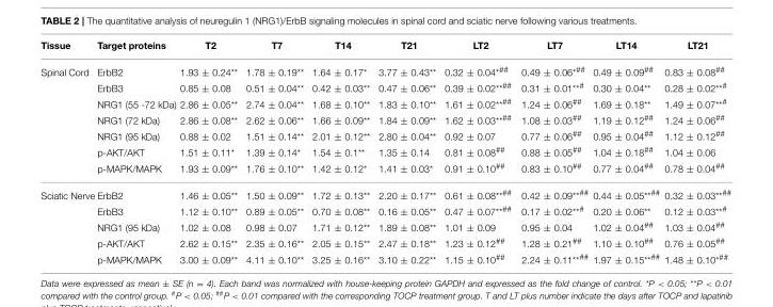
<table><thead><tr><td>Tissue</td><td>Target proteins</td><td>T2</td><td>T7</td><td>T14</td><td>T21</td><td>LT2</td><td>LT7</td><td>LT14</td><td>LT21</td></tr></thead><tbody><tr><td rowspan="7">Spinal Cord</td><td>ErbB2</td><td>1.93 ± 0.24**</td><td>1.78 ± 0.19**</td><td>1.64 ± 0.17*</td><td>3.77 ± 0.43**</td><td>0.32 ± 0.04<sup>*##</sup></td><td>0.49 ± 0.06<sup>*##</sup></td><td>0.49 ± 0.09<sup>##</sup></td><td>0.83 ± 0.08<sup>##</sup></td></tr><tr><td>ErbB3</td><td>0.85 ± 0.08</td><td>0.51 ± 0.04**</td><td>0.42 ± 0.03**</td><td>0.47 ± 0.06**</td><td>0.39 ± 0.02<sup>**##</sup></td><td>0.31 ± 0.01<sup>**#</sup></td><td>0.30 ± 0.04**</td><td>0.28 ± 0.02<sup>**#</sup></td></tr><tr><td>NRG1 (55 -72 kDa)</td><td>2.86 ± 0.05**</td><td>2.74 ± 0.04**</td><td>1.68 ± 0.10**</td><td>1.83 ± 0.10**</td><td>1.61 ± 0.02<sup>**##</sup></td><td>1.24 ± 0.06<sup>##</sup></td><td>1.69 ± 0.18**</td><td>1.49 ± 0.07<sup>**#</sup></td></tr><tr><td>NRG1 (72 kDa)</td><td>2.86 ± 0.08**</td><td>2.62 ± 0.06**</td><td>1.66 ± 0.09**</td><td>1.84 ± 0.09**</td><td>1.62 ± 0.03<sup>**##</sup></td><td>1.08 ± 0.03<sup>##</sup></td><td>1.19 ± 0.12<sup>##</sup></td><td>1.24 ± 0.06<sup>##</sup></td></tr><tr><td>NRG1 (95 kDa)</td><td>0.88 ± 0.02</td><td>1.51 ± 0.14**</td><td>2.01 ± 0.12**</td><td>2.80 ± 0.04**</td><td>0.92 ± 0.07</td><td>0.77 ± 0.06<sup>##</sup></td><td>0.95 ± 0.04<sup>##</sup></td><td>1.12 ± 0.12<sup>##</sup></td></tr><tr><td>p-AKT/AKT</td><td>1.51 ± 0.11*</td><td>1.39 ± 0.14*</td><td>1.54 ± 0.1**</td><td>1.35 ± 0.14</td><td>0.81 ± 0.08<sup>##</sup></td><td>0.88 ± 0.05<sup>##</sup></td><td>1.04 ± 0.18<sup>##</sup></td><td>1.04 ± 0.06</td></tr><tr><td>p-MAPK/MAPK</td><td>1.93 ± 0.09**</td><td>1.76 ± 0.10**</td><td>1.42 ± 0.12*</td><td>1.41 ± 0.03*</td><td>0.91 ± 0.10<sup>##</sup></td><td>0.83 ± 0.10<sup>##</sup></td><td>0.77 ± 0.04<sup>##</sup></td><td>0.78 ± 0.04<sup>##</sup></td></tr><tr><td rowspan="5">Sciatic Nerve</td><td>ErbB2</td><td>1.46 ± 0.05**</td><td>1.50 ± 0.09**</td><td>1.72 ± 0.13**</td><td>2.20 ± 0.17**</td><td>0.61 ± 0.08<sup>**##</sup></td><td>0.42 ± 0.09<sup>**##</sup></td><td>0.44 ± 0.05<sup>**##</sup></td><td>0.32 ± 0.03<sup>**##</sup></td></tr><tr><td>ErbB3</td><td>1.12 ± 0.10**</td><td>0.89 ± 0.05**</td><td>0.70 ± 0.08**</td><td>0.16 ± 0.05**</td><td>0.47 ± 0.07<sup>**##</sup></td><td>0.17 ± 0.02<sup>**#</sup></td><td>0.20 ± 0.06**</td><td>0.12 ± 0.03<sup>**#</sup></td></tr><tr><td>NRG1 (95 kDa)</td><td>1.02 ± 0.08</td><td>0.98 ± 0.07</td><td>1.71 ± 0.12**</td><td>1.89 ± 0.08**</td><td>1.01 ± 0.09</td><td>0.95 ± 0.04</td><td>1.02 ± 0.04<sup>##</sup></td><td>1.03 ± 0.04<sup>##</sup></td></tr><tr><td>p-AKT/AKT</td><td>2.62 ± 0.15**</td><td>2.35 ± 0.16**</td><td>2.05 ± 0.15**</td><td>2.47 ± 0.18**</td><td>1.23 ± 0.12<sup>##</sup></td><td>1.28 ± 0.21<sup>##</sup></td><td>1.10 ± 0.10<sup>##</sup></td><td>0.76 ± 0.05<sup>##</sup></td></tr><tr><td>p-MAPK/MAPK</td><td>3.00 ± 0.09**</td><td>4.11 ± 0.10**</td><td>3.25 ± 0.16**</td><td>3.10 ± 0.22**</td><td>1.15 ± 0.10<sup>##</sup></td><td>2.24 ± 0.11<sup>**##</sup></td><td>1.97 ± 0.15<sup>**##</sup></td><td>1.48 ± 0.10<sup>*##</sup></td></tr></tbody></table>